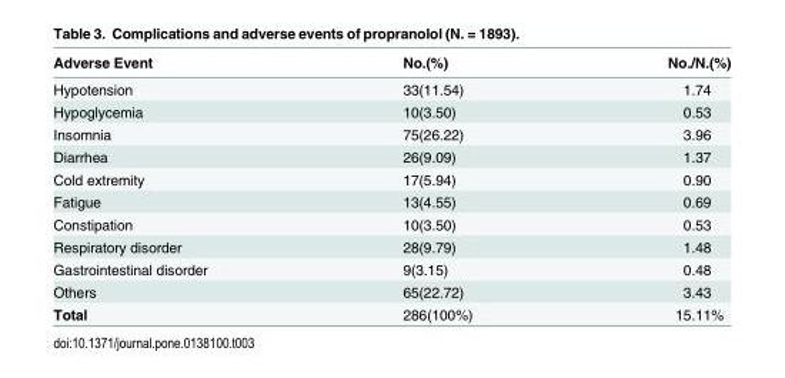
<table><thead><tr><td>Adverse Event</td><td>No.(%)</td><td>No./N.(%)</td></tr></thead><tbody><tr><td>Hypotension</td><td>33(11.54)</td><td>1.74</td></tr><tr><td>Hypoglycemia</td><td>10(3.50)</td><td>0.53</td></tr><tr><td>Insomnia</td><td>75(26.22)</td><td>3.96</td></tr><tr><td>Diarrhea</td><td>26(9.09)</td><td>1.37</td></tr><tr><td>Cold extremity</td><td>17(5.94)</td><td>0.90</td></tr><tr><td>Fatigue</td><td>13(4.55)</td><td>0.69</td></tr><tr><td>Constipation</td><td>10(3.50)</td><td>0.53</td></tr><tr><td>Respiratory disorder</td><td>28(9.79)</td><td>1.48</td></tr><tr><td>Gastrointestinal disorder</td><td>9(3.15)</td><td>0.48</td></tr><tr><td>Others</td><td>65(22.72)</td><td>3.43</td></tr><tr><td>Total</td><td>286(100%)</td><td>15.11%</td></tr></tbody></table>